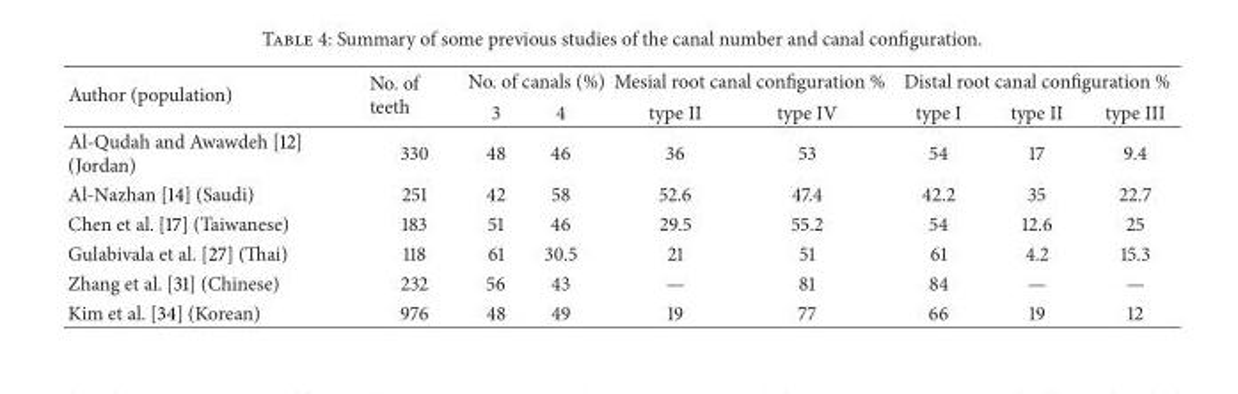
<table><thead><tr><td rowspan="2">Author (population)</td><td rowspan="2">No. of teeth</td><td colspan="2">No. of canals (%)</td><td colspan="2">Mesial root canal configuration %</td><td colspan="3">Distal root canal configuration %</td></tr><tr><td>3</td><td>4</td><td>type II</td><td>type IV</td><td>type I</td><td>type II</td><td>type III</td></tr></thead><tbody><tr><td>Al-Qudah and Awawdeh [12] (Jordan)</td><td>330</td><td>48</td><td>46</td><td>36</td><td>53</td><td>54</td><td>17</td><td>9.4</td></tr><tr><td>Al-Nazhan [14] (Saudi)</td><td>251</td><td>42</td><td>58</td><td>52.6</td><td>47.4</td><td>42.2</td><td>35</td><td>22.7</td></tr><tr><td>Chen et al. [17] (Taiwanese)</td><td>183</td><td>51</td><td>46</td><td>29.5</td><td>55.2</td><td>54</td><td>12.6</td><td>25</td></tr><tr><td>Gulabivala et al. [27] (Thai)</td><td>118</td><td>61</td><td>30.5</td><td>21</td><td>51</td><td>61</td><td>4.2</td><td>15.3</td></tr><tr><td>Zhang et al. [31] (Chinese)</td><td>232</td><td>56</td><td>43</td><td>—</td><td>81</td><td>84</td><td>—</td><td>—</td></tr><tr><td>Kim et al. [34] (Korean)</td><td>976</td><td>48</td><td>49</td><td>19</td><td>77</td><td>66</td><td>19</td><td>12</td></tr></tbody></table>